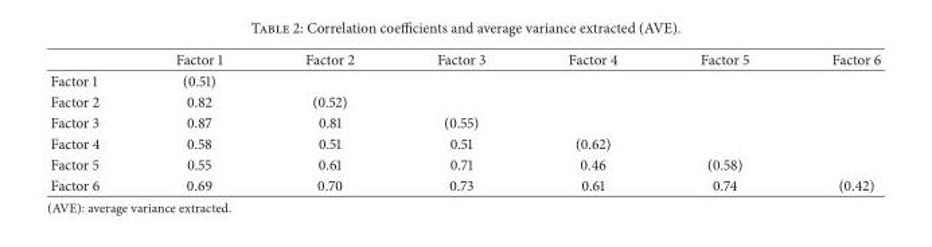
<table><thead><tr><td></td><td>Factor 1</td><td>Factor 2</td><td>Factor 3</td><td>Factor 4</td><td>Factor 5</td><td>Factor 6</td></tr></thead><tbody><tr><td>Factor 1</td><td>(0.51)</td><td></td><td></td><td></td><td></td><td></td></tr><tr><td>Factor 2</td><td>0.82</td><td>(0.52)</td><td></td><td></td><td></td><td></td></tr><tr><td>Factor 3</td><td>0.87</td><td>0.81</td><td>(0.55)</td><td></td><td></td><td></td></tr><tr><td>Factor 4</td><td>0.58</td><td>0.51</td><td>0.51</td><td>(0.62)</td><td></td><td></td></tr><tr><td>Factor 5</td><td>0.55</td><td>0.61</td><td>0.71</td><td>0.46</td><td>(0.58)</td><td></td></tr><tr><td>Factor 6</td><td>0.69</td><td>0.70</td><td>0.73</td><td>0.61</td><td>0.74</td><td>(0.42)</td></tr></tbody></table>